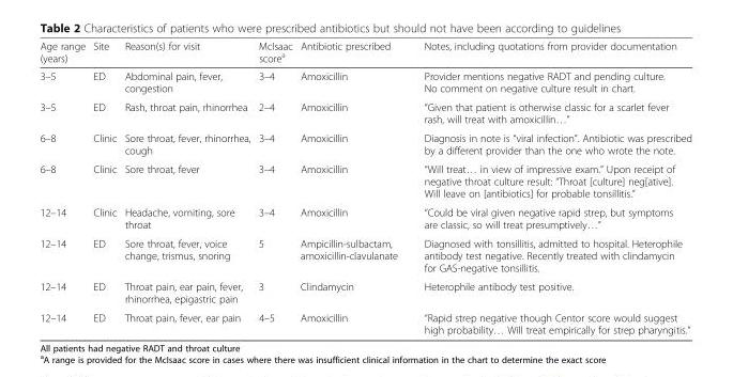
<table><thead><tr><td>Age range (years)</td><td>Site</td><td>Reason(s) for visit</td><td>McIsaac score<sup>a</sup></td><td>Antibiotic prescribed</td><td>Notes, including quotations from provider documentation</td></tr></thead><tbody><tr><td>3–5</td><td>ED</td><td>Abdominal pain, fever, congestion</td><td>3–4</td><td>Amoxicillin</td><td>Provider mentions negative RADT and pending culture. No comment on negative culture result in chart.</td></tr><tr><td>3–5</td><td>ED</td><td>Rash, throat pain, rhinorrhea</td><td>2–4</td><td>Amoxicillin</td><td>“Given that patient is otherwise classic for a scarlet fever rash, will treat with amoxicillin…”</td></tr><tr><td>6–8</td><td>Clinic</td><td>Sore throat, fever, rhinorrhea, cough</td><td>3–4</td><td>Amoxicillin</td><td>Diagnosis in note is “viral infection”. Antibiotic was prescribed by a different provider than the one who wrote the note.</td></tr><tr><td>6–8</td><td>Clinic</td><td>Sore throat, fever</td><td>3–4</td><td>Amoxicillin</td><td>“Will treat… in view of impressive exam.” Upon receipt of negative throat culture result: “Throat [culture] neg[ative]. Will leave on [antibiotics] for probable tonsillitis.”</td></tr><tr><td>12–14</td><td>Clinic</td><td>Headache, vomiting, sore throat</td><td>3–4</td><td>Amoxicillin</td><td>“Could be viral given negative rapid strep, but symptoms are classic, so will treat presumptively…”</td></tr><tr><td>12–14</td><td>ED</td><td>Sore throat, fever, voice change, trismus, snoring</td><td>5</td><td>Ampicillin-sulbactam, amoxicillin-clavulanate</td><td>Diagnosed with tonsillitis, admitted to hospital. Heterophile antibody test negative. Recently treated with clindamycin for GAS-negative tonsillitis.</td></tr><tr><td>12–14</td><td>ED</td><td>Throat pain, ear pain, fever, rhinorrhea, epigastric pain</td><td>3</td><td>Clindamycin</td><td>Heterophile antibody test positive.</td></tr><tr><td>12–14</td><td>ED</td><td>Throat pain, fever, ear pain</td><td>4–5</td><td>Amoxicillin</td><td>“Rapid strep negative though Centor score would suggest high probability… Will treat empirically for strep pharyngitis.”</td></tr></tbody></table>